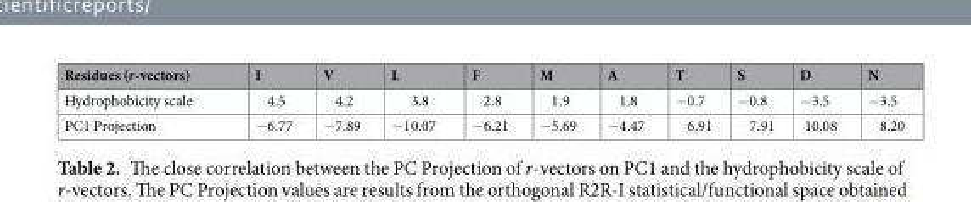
<table><thead><tr><td>Residues (r-vectors)</td><td>I</td><td>V</td><td>L</td><td>F</td><td>M</td><td>A</td><td>T</td><td>S</td><td>D</td><td>N</td></tr></thead><tbody><tr><td>Hydrophobicity scale</td><td>4.5</td><td>4.2</td><td>3.8</td><td>2.8</td><td>1.9</td><td>1.8</td><td>−0.7</td><td>−0.8</td><td>−3.5</td><td>−3.5</td></tr><tr><td>PC1 Projection</td><td>−6.77</td><td>−7.89</td><td>−10.07</td><td>−6.21</td><td>−5.69</td><td>−4.47</td><td>6.91</td><td>7.91</td><td>10.08</td><td>8.20</td></tr></tbody></table>